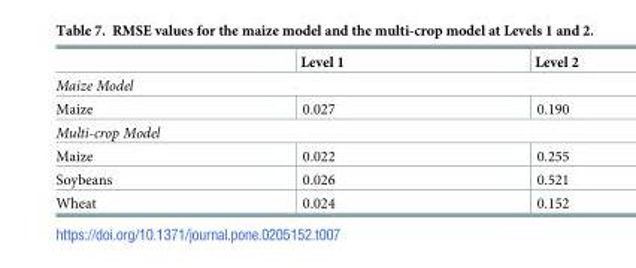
<table><thead><tr><td></td><td>Level 1</td><td>Level 2</td></tr></thead><tbody><tr><td colspan="3">Maize Model</td></tr><tr><td>Maize</td><td>0.027</td><td>0.190</td></tr><tr><td colspan="3">Multi-crop Model</td></tr><tr><td>Maize</td><td>0.022</td><td>0.255</td></tr><tr><td>Soybeans</td><td>0.026</td><td>0.521</td></tr><tr><td>Wheat</td><td>0.024</td><td>0.152</td></tr></tbody></table>